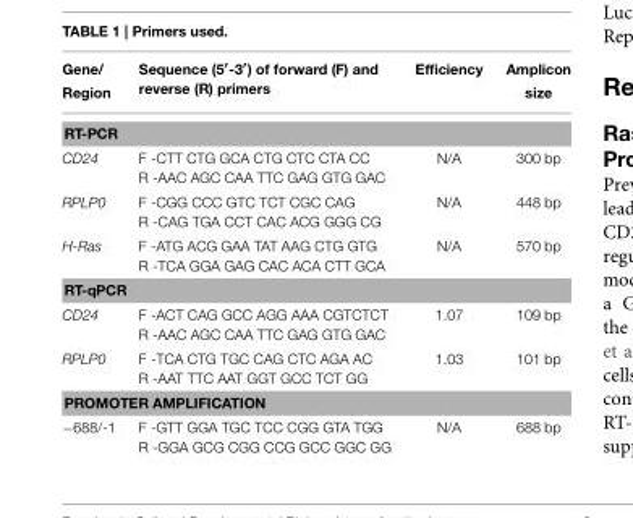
<table><thead><tr><td>Gene/ Region</td><td>Sequence (5<sup>′</sup>-3<sup>′</sup>) of forward (F) and reverse (R) primers</td><td>Efficiency</td><td>Amplicon size</td></tr></thead><tbody><tr><td colspan="4">RT-PCR</td></tr><tr><td>CD24</td><td>F -CTT CTG GCA CTG CTC CTA CC R -AAC AGC CAA TTC GAG GTG GAC</td><td>N/A</td><td>300 bp</td></tr><tr><td>RPLP0</td><td>F -CGG CCC GTC TCT CGC CAG R -CAG TGA CCT CAC ACG GGG CG</td><td>N/A</td><td>448 bp</td></tr><tr><td>H-Ras</td><td>F -ATG ACG GAA TAT AAG CTG GTG R -TCA GGA GAG CAC ACA CTT GCA</td><td>N/A</td><td>570 bp</td></tr><tr><td colspan="4">RT-qPCR</td></tr><tr><td>CD24</td><td>F -ACT CAG GCC AGG AAA CGTCTCT R -AAC AGC CAA TTC GAG GTG GAC</td><td>1.07</td><td>109 bp</td></tr><tr><td>RPLP0</td><td>F -TCA CTG TGC CAG CTC AGA AC R -AAT TTC AAT GGT GCC TCT GG</td><td>1.03</td><td>101 bp</td></tr><tr><td colspan="4">PROMOTER AMPLIFICATION</td></tr><tr><td>−688/-1</td><td>F -GTT GGA TGC TCC CGG GTA TGG R -GGA GCG CGG CCG GCC GGC GG</td><td>N/A</td><td>688 bp</td></tr></tbody></table>